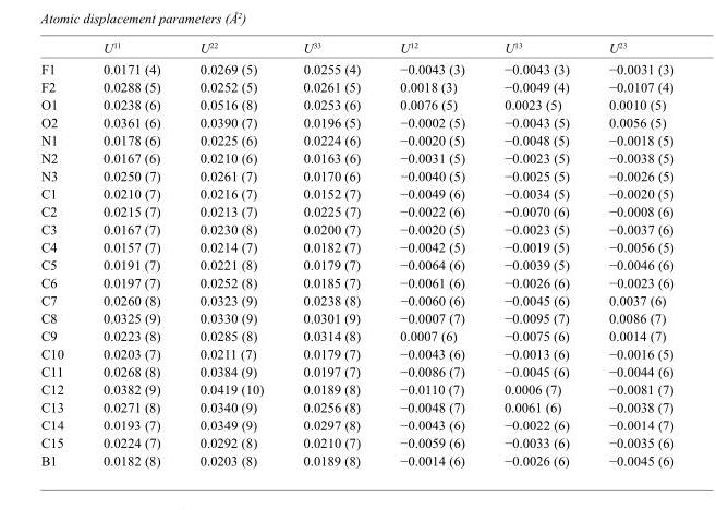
<table><thead><tr><td></td><td>U<sup>11</sup></td><td>U<sup>22</sup></td><td>U<sup>33</sup></td><td>U<sup>12</sup></td><td>U<sup>13</sup></td><td>U<sup>23</sup></td></tr></thead><tbody><tr><td>F1</td><td>0.0171 (4)</td><td>0.0269 (5)</td><td>0.0255 (4)</td><td>−0.0043 (3)</td><td>−0.0043 (3)</td><td>−0.0031 (3)</td></tr><tr><td>F2</td><td>0.0288 (5)</td><td>0.0252 (5)</td><td>0.0261 (5)</td><td>0.0018 (3)</td><td>−0.0049 (4)</td><td>−0.0107 (4)</td></tr><tr><td>O1</td><td>0.0238 (6)</td><td>0.0516 (8)</td><td>0.0253 (6)</td><td>0.0076 (5)</td><td>0.0023 (5)</td><td>0.0010 (5)</td></tr><tr><td>O2</td><td>0.0361 (6)</td><td>0.0390 (7)</td><td>0.0196 (5)</td><td>−0.0002 (5)</td><td>−0.0043 (5)</td><td>0.0056 (5)</td></tr><tr><td>N1</td><td>0.0178 (6)</td><td>0.0225 (6)</td><td>0.0224 (6)</td><td>−0.0020 (5)</td><td>−0.0048 (5)</td><td>−0.0018 (5)</td></tr><tr><td>N2</td><td>0.0167 (6)</td><td>0.0210 (6)</td><td>0.0163 (6)</td><td>−0.0031 (5)</td><td>−0.0023 (5)</td><td>−0.0038 (5)</td></tr><tr><td>N3</td><td>0.0250 (7)</td><td>0.0261 (7)</td><td>0.0170 (6)</td><td>−0.0040 (5)</td><td>−0.0025 (5)</td><td>−0.0026 (5)</td></tr><tr><td>C1</td><td>0.0210 (7)</td><td>0.0216 (7)</td><td>0.0152 (7)</td><td>−0.0049 (6)</td><td>−0.0034 (5)</td><td>−0.0020 (5)</td></tr><tr><td>C2</td><td>0.0215 (7)</td><td>0.0213 (7)</td><td>0.0225 (7)</td><td>−0.0022 (6)</td><td>−0.0070 (6)</td><td>−0.0008 (6)</td></tr><tr><td>C3</td><td>0.0167 (7)</td><td>0.0230 (8)</td><td>0.0200 (7)</td><td>−0.0020 (5)</td><td>−0.0023 (5)</td><td>−0.0037 (6)</td></tr><tr><td>C4</td><td>0.0157 (7)</td><td>0.0214 (7)</td><td>0.0182 (7)</td><td>−0.0042 (5)</td><td>−0.0019 (5)</td><td>−0.0056 (5)</td></tr><tr><td>C5</td><td>0.0191 (7)</td><td>0.0221 (8)</td><td>0.0179 (7)</td><td>−0.0064 (6)</td><td>−0.0039 (5)</td><td>−0.0046 (6)</td></tr><tr><td>C6</td><td>0.0197 (7)</td><td>0.0252 (8)</td><td>0.0185 (7)</td><td>−0.0061 (6)</td><td>−0.0026 (6)</td><td>−0.0023 (6)</td></tr><tr><td>C7</td><td>0.0260 (8)</td><td>0.0323 (9)</td><td>0.0238 (8)</td><td>−0.0060 (6)</td><td>−0.0045 (6)</td><td>0.0037 (6)</td></tr><tr><td>C8</td><td>0.0325 (9)</td><td>0.0330 (9)</td><td>0.0301 (9)</td><td>−0.0007 (7)</td><td>−0.0095 (7)</td><td>0.0086 (7)</td></tr><tr><td>C9</td><td>0.0223 (8)</td><td>0.0285 (8)</td><td>0.0314 (8)</td><td>0.0007 (6)</td><td>−0.0075 (6)</td><td>0.0014 (7)</td></tr><tr><td>C10</td><td>0.0203 (7)</td><td>0.0211 (7)</td><td>0.0179 (7)</td><td>−0.0043 (6)</td><td>−0.0013 (6)</td><td>−0.0016 (5)</td></tr><tr><td>C11</td><td>0.0268 (8)</td><td>0.0384 (9)</td><td>0.0197 (7)</td><td>−0.0086 (7)</td><td>−0.0045 (6)</td><td>−0.0044 (6)</td></tr><tr><td>C12</td><td>0.0382 (9)</td><td>0.0419 (10)</td><td>0.0189 (8)</td><td>−0.0110 (7)</td><td>0.0006 (7)</td><td>−0.0081 (7)</td></tr><tr><td>C13</td><td>0.0271 (8)</td><td>0.0340 (9)</td><td>0.0256 (8)</td><td>−0.0048 (7)</td><td>0.0061 (6)</td><td>−0.0038 (7)</td></tr><tr><td>C14</td><td>0.0193 (7)</td><td>0.0349 (9)</td><td>0.0297 (8)</td><td>−0.0043 (6)</td><td>−0.0022 (6)</td><td>−0.0014 (7)</td></tr><tr><td>C15</td><td>0.0224 (7)</td><td>0.0292 (8)</td><td>0.0210 (7)</td><td>−0.0059 (6)</td><td>−0.0033 (6)</td><td>−0.0035 (6)</td></tr><tr><td>B1</td><td>0.0182 (8)</td><td>0.0203 (8)</td><td>0.0189 (8)</td><td>−0.0014 (6)</td><td>−0.0026 (6)</td><td>−0.0045 (6)</td></tr></tbody></table>